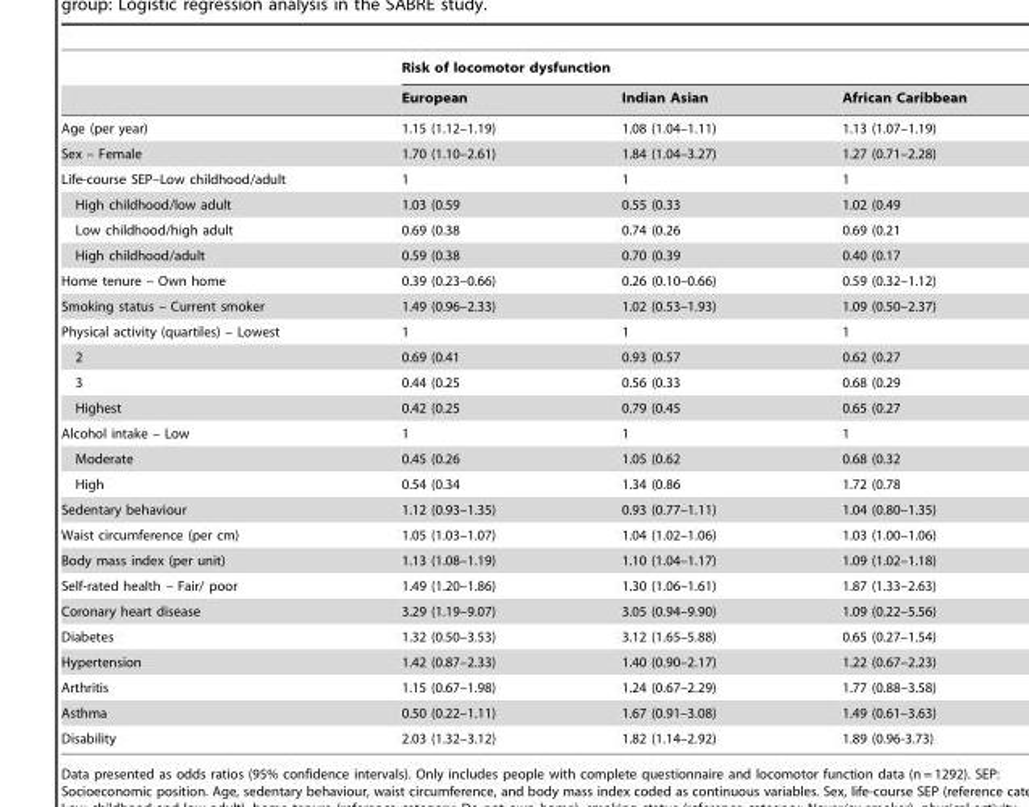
<table><thead><tr><td rowspan="2"></td><td colspan="3">Risk of locomotor dysfunction</td></tr><tr><td>European</td><td>Indian Asian</td><td>African Caribbean</td></tr></thead><tbody><tr><td>Age (per year)</td><td>1.15 (1.12–1.19)</td><td>1.08 (1.04–1.11)</td><td>1.13 (1.07–1.19)</td></tr><tr><td>Sex – Female</td><td>1.70 (1.10–2.61)</td><td>1.84 (1.04–3.27)</td><td>1.27 (0.71–2.28)</td></tr><tr><td>Life-course SEP–Low childhood/adult</td><td>1</td><td>1</td><td>1</td></tr><tr><td>High childhood/low adult</td><td>1.03 (0.59</td><td>0.55 (0.33</td><td>1.02 (0.49</td></tr><tr><td>Low childhood/high adult</td><td>0.69 (0.38</td><td>0.74 (0.26</td><td>0.69 (0.21</td></tr><tr><td>High childhood/adult</td><td>0.59 (0.38</td><td>0.70 (0.39</td><td>0.40 (0.17</td></tr><tr><td>Home tenure – Own home</td><td>0.39 (0.23–0.66)</td><td>0.26 (0.10–0.66)</td><td>0.59 (0.32–1.12)</td></tr><tr><td>Smoking status – Current smoker</td><td>1.49 (0.96–2.33)</td><td>1.02 (0.53–1.93)</td><td>1.09 (0.50–2.37)</td></tr><tr><td>Physical activity (quartiles) – Lowest</td><td>1</td><td>1</td><td>1</td></tr><tr><td>2</td><td>0.69 (0.41</td><td>0.93 (0.57</td><td>0.62 (0.27</td></tr><tr><td>3</td><td>0.44 (0.25</td><td>0.56 (0.33</td><td>0.68 (0.29</td></tr><tr><td>Highest</td><td>0.42 (0.25</td><td>0.79 (0.45</td><td>0.65 (0.27</td></tr><tr><td>Alcohol intake – Low</td><td>1</td><td>1</td><td>1</td></tr><tr><td>Moderate</td><td>0.45 (0.26</td><td>1.05 (0.62</td><td>0.68 (0.32</td></tr><tr><td>High</td><td>0.54 (0.34</td><td>1.34 (0.86</td><td>1.72 (0.78</td></tr><tr><td>Sedentary behaviour</td><td>1.12 (0.93–1.35)</td><td>0.93 (0.77–1.11)</td><td>1.04 (0.80–1.35)</td></tr><tr><td>Waist circumference (per cm)</td><td>1.05 (1.03–1.07)</td><td>1.04 (1.02–1.06)</td><td>1.03 (1.00–1.06)</td></tr><tr><td>Body mass index (per unit)</td><td>1.13 (1.08–1.19)</td><td>1.10 (1.04–1.17)</td><td>1.09 (1.02–1.18)</td></tr><tr><td>Self-rated health – Fair/ poor</td><td>1.49 (1.20–1.86)</td><td>1.30 (1.06–1.61)</td><td>1.87 (1.33–2.63)</td></tr><tr><td>Coronary heart disease</td><td>3.29 (1.19–9.07)</td><td>3.05 (0.94–9.90)</td><td>1.09 (0.22–5.56)</td></tr><tr><td>Diabetes</td><td>1.32 (0.50–3.53)</td><td>3.12 (1.65–5.88)</td><td>0.65 (0.27–1.54)</td></tr><tr><td>Hypertension</td><td>1.42 (0.87–2.33)</td><td>1.40 (0.90–2.17)</td><td>1.22 (0.67–2.23)</td></tr><tr><td>Arthritis</td><td>1.15 (0.67–1.98)</td><td>1.24 (0.67–2.29)</td><td>1.77 (0.88–3.58)</td></tr><tr><td>Asthma</td><td>0.50 (0.22–1.11)</td><td>1.67 (0.91–3.08)</td><td>1.49 (0.61–3.63)</td></tr><tr><td>Disability</td><td>2.03 (1.32–3.12)</td><td>1.82 (1.14–2.92)</td><td>1.89 (0.96-3.73)</td></tr></tbody></table>